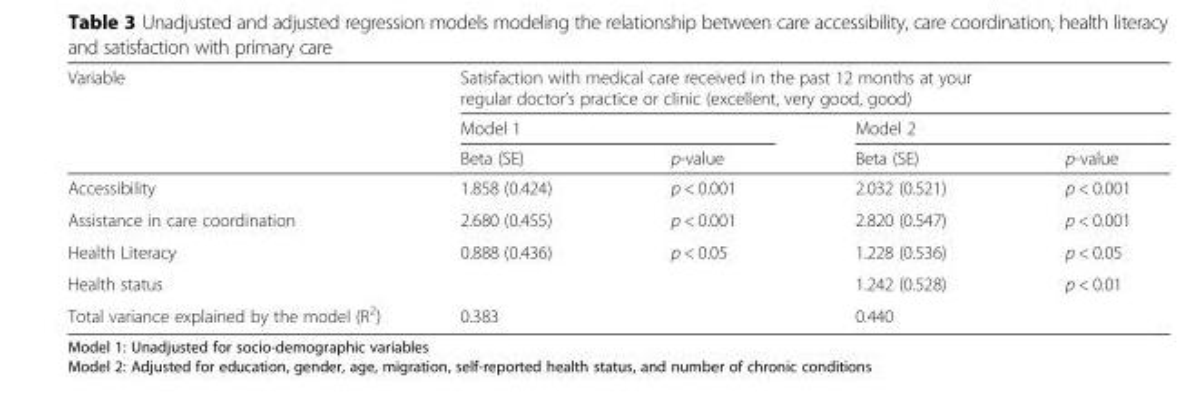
<table><thead><tr><td rowspan="3">Variable</td><td colspan="4">Satisfaction with medical care received in the past 12 months at your regular doctor’s practice or clinic (excellent, very good, good)</td></tr><tr><td colspan="2">Model 1</td><td colspan="2">Model 2</td></tr><tr><td>Beta (SE)</td><td>p-value</td><td>Beta (SE)</td><td>p-value</td></tr></thead><tbody><tr><td>Accessibility</td><td>1.858 (0.424)</td><td>p &lt; 0.001</td><td>2.032 (0.521)</td><td>p &lt; 0.001</td></tr><tr><td>Assistance in care coordination</td><td>2.680 (0.455)</td><td>p &lt; 0.001</td><td>2.820 (0.547)</td><td>p &lt; 0.001</td></tr><tr><td>Health Literacy</td><td>0.888 (0.436)</td><td>p &lt; 0.05</td><td>1.228 (0.536)</td><td>p &lt; 0.05</td></tr><tr><td>Health status</td><td></td><td></td><td>1.242 (0.528)</td><td>p &lt; 0.01</td></tr><tr><td>Total variance explained by the model (R<sup>2</sup>)</td><td>0.383</td><td></td><td>0.440</td><td></td></tr></tbody></table>